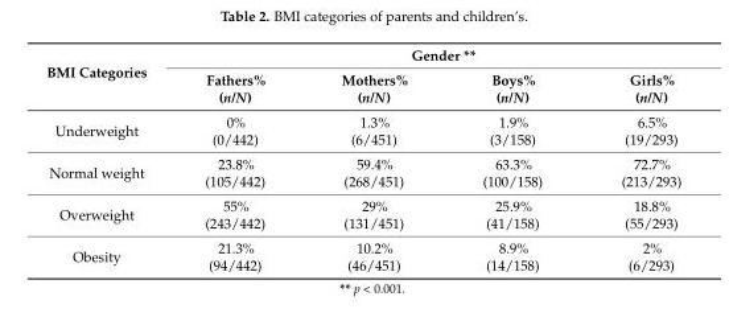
<table><thead><tr><td rowspan="2">BMI Categories</td><td colspan="4">Gender **</td></tr><tr><td>Fathers% (n/N)</td><td>Mothers% (n/N)</td><td>Boys% (n/N)</td><td>Girls% (n/N)</td></tr></thead><tbody><tr><td>Underweight</td><td>0% (0/442)</td><td>1.3% (6/451)</td><td>1.9% (3/158)</td><td>6.5% (19/293)</td></tr><tr><td>Normal weight</td><td>23.8% (105/442)</td><td>59.4% (268/451)</td><td>63.3% (100/158)</td><td>72.7% (213/293)</td></tr><tr><td>Overweight</td><td>55% (243/442)</td><td>29% (131/451)</td><td>25.9% (41/158)</td><td>18.8% (55/293)</td></tr><tr><td>Obesity</td><td>21.3% (94/442)</td><td>10.2% (46/451)</td><td>8.9% (14/158)</td><td>2% (6/293)</td></tr></tbody></table>